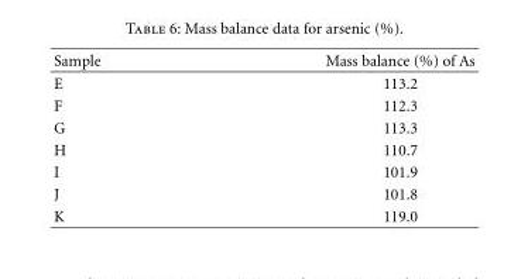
<table><thead><tr><td>Sample</td><td>Mass balance (%) of As</td></tr></thead><tbody><tr><td>E</td><td>113.2</td></tr><tr><td>F</td><td>112.3</td></tr><tr><td>G</td><td>113.3</td></tr><tr><td>H</td><td>110.7</td></tr><tr><td>I</td><td>101.9</td></tr><tr><td>J</td><td>101.8</td></tr><tr><td>K</td><td>119.0</td></tr></tbody></table>